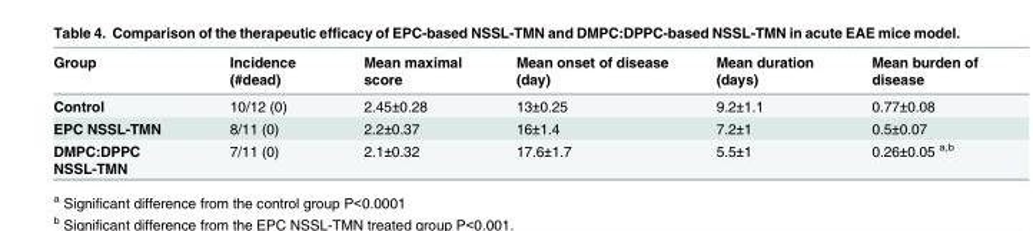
<table><thead><tr><td>Group</td><td>Incidence (#dead)</td><td>Mean maximal score</td><td>Mean onset of disease (day)</td><td>Mean duration (days)</td><td>Mean burden of disease</td></tr></thead><tbody><tr><td>Control</td><td>10/12 (0)</td><td>2.45±0.28</td><td>13±0.25</td><td>9.2±1.1</td><td>0.77±0.08</td></tr><tr><td>EPC NSSL-TMN</td><td>8/11 (0)</td><td>2.2±0.37</td><td>16±1.4</td><td>7.2±1</td><td>0.5±0.07</td></tr><tr><td>DMPC:DPPC NSSL-TMN</td><td>7/11 (0)</td><td>2.1±0.32</td><td>17.6±1.7</td><td>5.5±1</td><td>0.26±0.05 <sup>a,b</sup></td></tr></tbody></table>